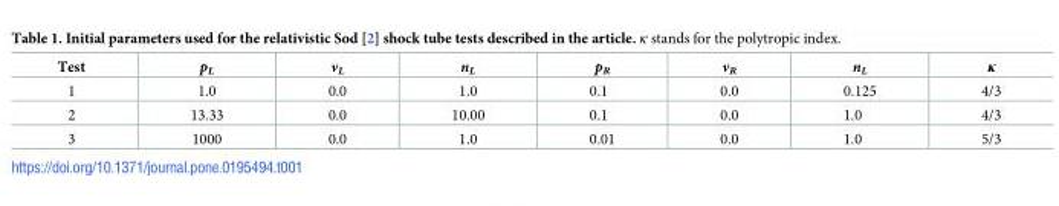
<table><thead><tr><td>Test</td><td>p<sub>L</sub></td><td>v<sub>L</sub></td><td>n<sub>L</sub></td><td>p<sub>R</sub></td><td>v<sub>R</sub></td><td>n<sub>L</sub></td><td>κ</td></tr></thead><tbody><tr><td>1</td><td>1.0</td><td>0.0</td><td>1.0</td><td>0.1</td><td>0.0</td><td>0.125</td><td>4/3</td></tr><tr><td>2</td><td>13.33</td><td>0.0</td><td>10.00</td><td>0.1</td><td>0.0</td><td>1.0</td><td>4/3</td></tr><tr><td>3</td><td>1000</td><td>0.0</td><td>1.0</td><td>0.01</td><td>0.0</td><td>1.0</td><td>5/3</td></tr></tbody></table>